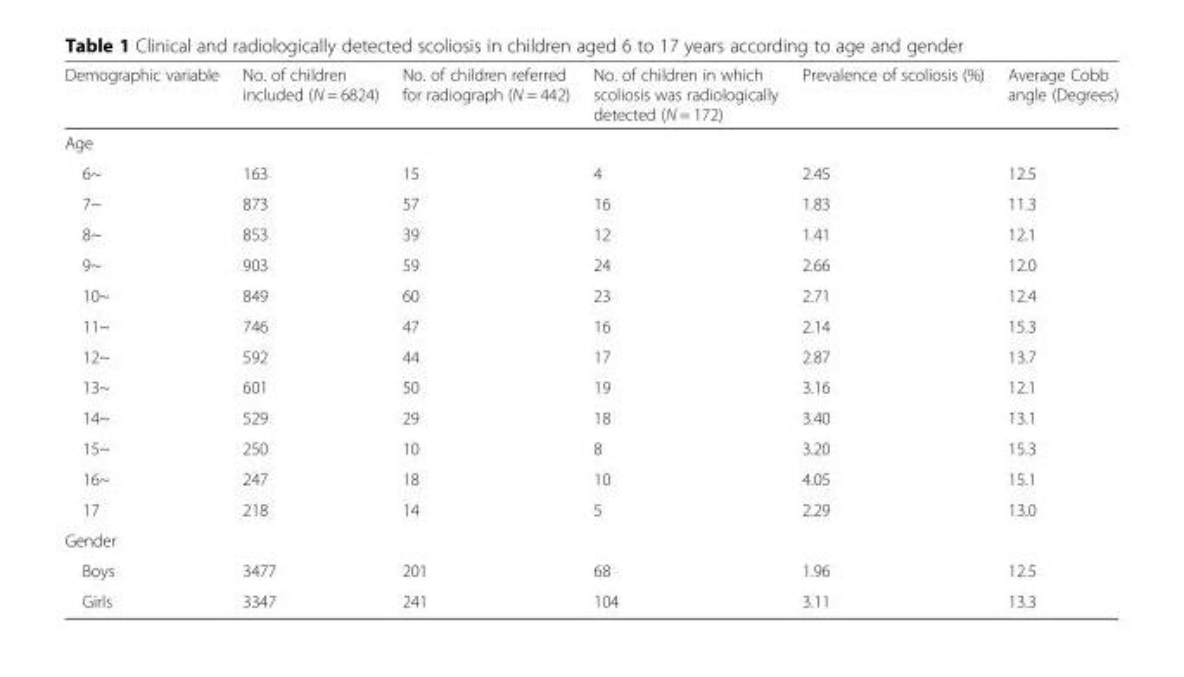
<table><thead><tr><td>Demographic variable</td><td>No. of children included (N = 6824)</td><td>No. of children referred for radiograph (N = 442)</td><td>No. of children in which scoliosis was radiologically detected (N = 172)</td><td>Prevalence of scoliosis (%)</td><td>Average Cobb angle (Degrees)</td></tr></thead><tbody><tr><td colspan="6">Age</td></tr><tr><td>6~</td><td>163</td><td>15</td><td>4</td><td>2.45</td><td>12.5</td></tr><tr><td>7~</td><td>873</td><td>57</td><td>16</td><td>1.83</td><td>11.3</td></tr><tr><td>8~</td><td>853</td><td>39</td><td>12</td><td>1.41</td><td>12.1</td></tr><tr><td>9~</td><td>903</td><td>59</td><td>24</td><td>2.66</td><td>12.0</td></tr><tr><td>10~</td><td>849</td><td>60</td><td>23</td><td>2.71</td><td>12.4</td></tr><tr><td>11~</td><td>746</td><td>47</td><td>16</td><td>2.14</td><td>15.3</td></tr><tr><td>12~</td><td>592</td><td>44</td><td>17</td><td>2.87</td><td>13.7</td></tr><tr><td>13~</td><td>601</td><td>50</td><td>19</td><td>3.16</td><td>12.1</td></tr><tr><td>14~</td><td>529</td><td>29</td><td>18</td><td>3.40</td><td>13.1</td></tr><tr><td>15~</td><td>250</td><td>10</td><td>8</td><td>3.20</td><td>15.3</td></tr><tr><td>16~</td><td>247</td><td>18</td><td>10</td><td>4.05</td><td>15.1</td></tr><tr><td>17</td><td>218</td><td>14</td><td>5</td><td>2.29</td><td>13.0</td></tr><tr><td colspan="6">Gender</td></tr><tr><td>Boys</td><td>3477</td><td>201</td><td>68</td><td>1.96</td><td>12.5</td></tr><tr><td>Girls</td><td>3347</td><td>241</td><td>104</td><td>3.11</td><td>13.3</td></tr></tbody></table>